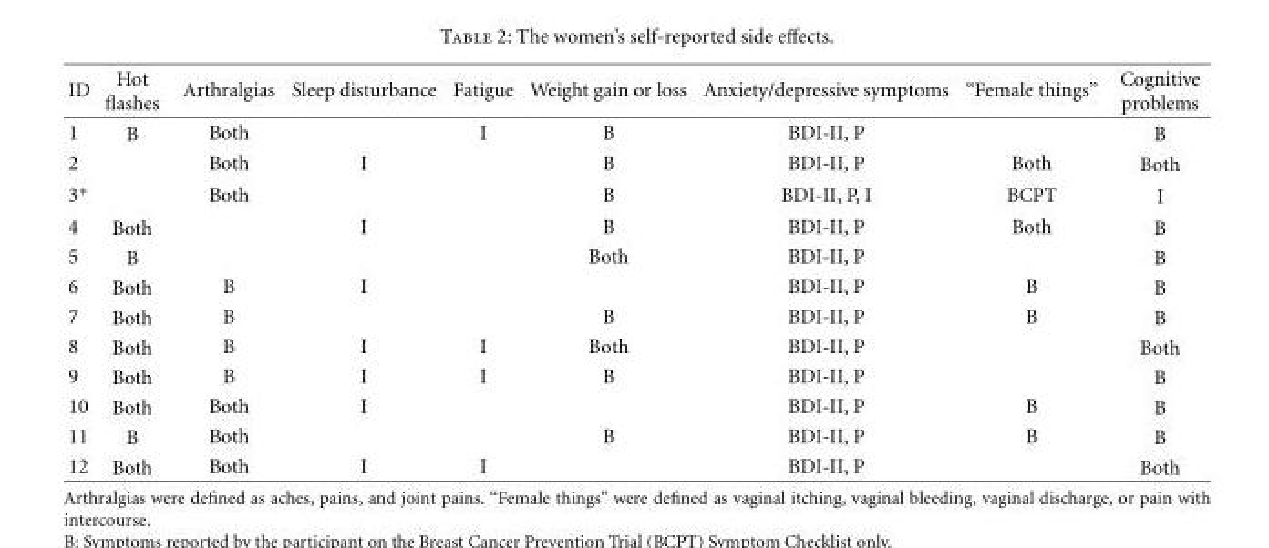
<table><thead><tr><td>ID</td><td>Hot flashes</td><td>Arthralgias</td><td>Sleep disturbance</td><td>Fatigue</td><td>Weight gain or loss</td><td>Anxiety/depressive symptoms</td><td>“Female things”</td><td>Cognitive problems</td></tr></thead><tbody><tr><td>1</td><td>B</td><td>Both</td><td></td><td>I</td><td>B</td><td>BDI-II, P</td><td></td><td>B</td></tr><tr><td>2</td><td></td><td>Both</td><td>I</td><td></td><td>B</td><td>BDI-II, P</td><td>Both</td><td>Both</td></tr><tr><td>3∗</td><td></td><td>Both</td><td></td><td></td><td>B</td><td>BDI-II, P, I</td><td>BCPT</td><td>I</td></tr><tr><td>4</td><td>Both</td><td></td><td>I</td><td></td><td>B</td><td>BDI-II, P</td><td>Both</td><td>B</td></tr><tr><td>5</td><td>B</td><td></td><td></td><td></td><td>Both</td><td>BDI-II, P</td><td></td><td>B</td></tr><tr><td>6</td><td>Both</td><td>B</td><td>I</td><td></td><td></td><td>BDI-II, P</td><td>B</td><td>B</td></tr><tr><td>7</td><td>Both</td><td>B</td><td></td><td></td><td>B</td><td>BDI-II, P</td><td>B</td><td>B</td></tr><tr><td>8</td><td>Both</td><td>B</td><td>I</td><td>I</td><td>Both</td><td>BDI-II, P</td><td></td><td>Both</td></tr><tr><td>9</td><td>Both</td><td>B</td><td>I</td><td>I</td><td>B</td><td>BDI-II, P</td><td></td><td>B</td></tr><tr><td>10</td><td>Both</td><td>Both</td><td>I</td><td></td><td></td><td>BDI-II, P</td><td>B</td><td>B</td></tr><tr><td>11</td><td>B</td><td>Both</td><td></td><td></td><td>B</td><td>BDI-II, P</td><td>B</td><td>B</td></tr><tr><td>12</td><td>Both</td><td>Both</td><td>I</td><td>I</td><td></td><td>BDI-II, P</td><td></td><td>Both</td></tr></tbody></table>